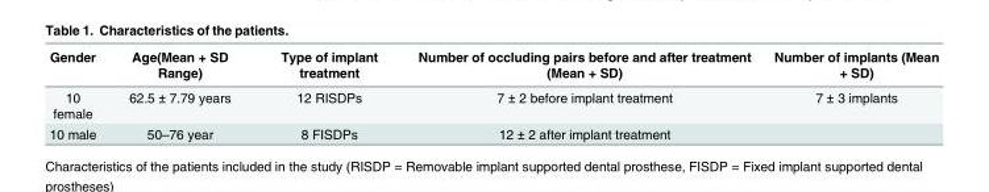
<table><thead><tr><td>Gender</td><td>Age(Mean + SD Range)</td><td>Type of implant treatment</td><td>Number of occluding pairs before and after treatment (Mean + SD)</td><td>Number of implants (Mean + SD)</td></tr></thead><tbody><tr><td>10 female</td><td>62.5 ± 7.79 years</td><td>12 RISDPs</td><td>7 ± 2 before implant treatment</td><td>7 ± 3 implants</td></tr><tr><td>10 male</td><td>50–76 year</td><td>8 FISDPs</td><td>12 ± 2 after implant treatment</td><td></td></tr></tbody></table>